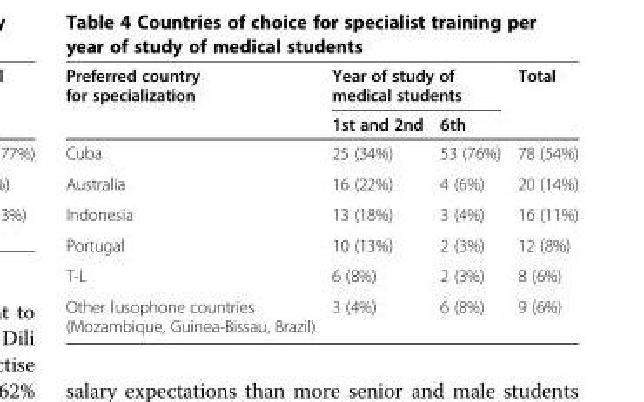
<table><thead><tr><td rowspan="2">Preferred country for specialization</td><td colspan="2">Year of study of medical students</td><td rowspan="2">Total</td></tr><tr><td>1st and 2nd</td><td>6th</td></tr></thead><tbody><tr><td>Cuba</td><td>25 (34%)</td><td>53 (76%)</td><td>78 (54%)</td></tr><tr><td>Australia</td><td>16 (22%)</td><td>4 (6%)</td><td>20 (14%)</td></tr><tr><td>Indonesia</td><td>13 (18%)</td><td>3 (4%)</td><td>16 (11%)</td></tr><tr><td>Portugal</td><td>10 (13%)</td><td>2 (3%)</td><td>12 (8%)</td></tr><tr><td>T-L</td><td>6 (8%)</td><td>2 (3%)</td><td>8 (6%)</td></tr><tr><td>Other lusophone countries (Mozambique, Guinea-Bissau, Brazil)</td><td>3 (4%)</td><td>6 (8%)</td><td>9 (6%)</td></tr></tbody></table>